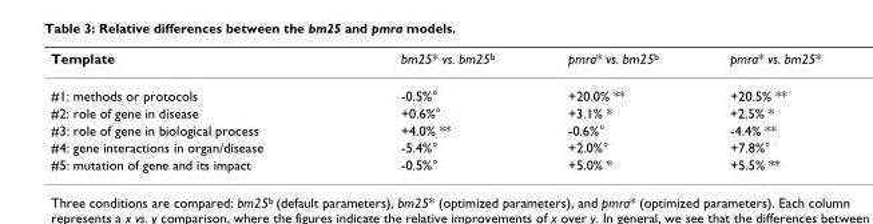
<table><thead><tr><td>Template</td><td>bm25* vs. bm25<sup>b</sup></td><td>pmra* vs. bm25<sup>b</sup></td><td>pmra* vs. bm25*</td></tr></thead><tbody><tr><td>#1: methods or protocols</td><td>-0.5%°</td><td>+20.0% **</td><td>+20.5% **</td></tr><tr><td>#2: role of gene in disease</td><td>+0.6%°</td><td>+3.1% *</td><td>+2.5% *</td></tr><tr><td>#3: role of gene in biological process</td><td>+4.0% **</td><td>-0.6%°</td><td>-4.4% **</td></tr><tr><td>#4: gene interactions in organ/disease</td><td>-5.4%°</td><td>+2.0%°</td><td>+7.8%°</td></tr><tr><td>#5: mutation of gene and its impact</td><td>-0.5%°</td><td>+5.0% *</td><td>+5.5% **</td></tr></tbody></table>